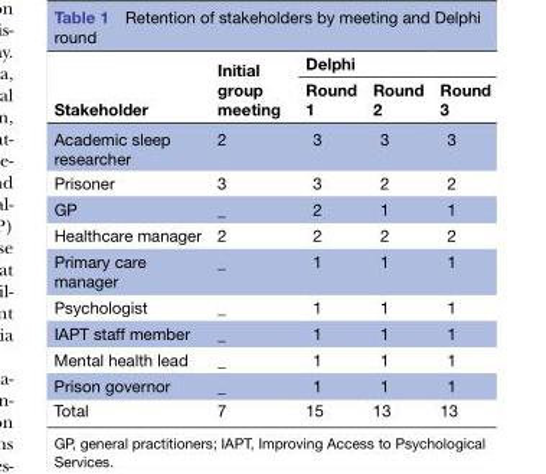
<table><thead><tr><td rowspan="2">Stakeholder</td><td rowspan="2">Initial group meeting</td><td colspan="3">Delphi</td></tr><tr><td>Round 1</td><td>Round 2</td><td>Round 3</td></tr></thead><tbody><tr><td>Academic sleep researcher</td><td>2</td><td>3</td><td>3</td><td>3</td></tr><tr><td>Prisoner</td><td>3</td><td>3</td><td>2</td><td>2</td></tr><tr><td>GP</td><td>_</td><td>2</td><td>1</td><td>1</td></tr><tr><td>Healthcare manager</td><td>2</td><td>2</td><td>2</td><td>2</td></tr><tr><td>Primary care manager</td><td>_</td><td>1</td><td>1</td><td>1</td></tr><tr><td>Psychologist</td><td>_</td><td>1</td><td>1</td><td>1</td></tr><tr><td>IAPT staff member</td><td>_</td><td>1</td><td>1</td><td>1</td></tr><tr><td>Mental health lead</td><td>_</td><td>1</td><td>1</td><td>1</td></tr><tr><td>Prison governor</td><td>_</td><td>1</td><td>1</td><td>1</td></tr><tr><td>Total</td><td>7</td><td>15</td><td>13</td><td>13</td></tr></tbody></table>